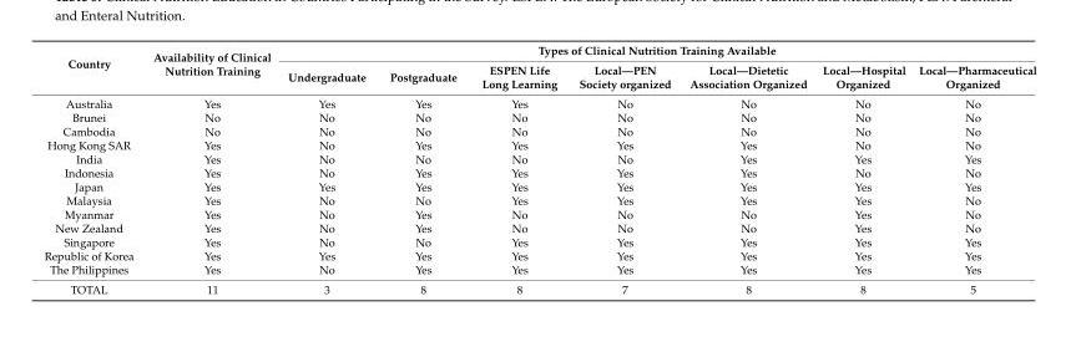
<table><thead><tr><td rowspan="2">Country</td><td rowspan="2">Availability of Clinical Nutrition Training</td><td colspan="7">Types of Clinical Nutrition Training Available</td></tr><tr><td>Undergraduate</td><td>Postgraduate</td><td>ESPEN Life Long Learning</td><td>Local—PEN Society organized</td><td>Local—Dietetic Association Organized</td><td>Local—Hospital Organized</td><td>Local—Pharmaceutical Organized</td></tr></thead><tbody><tr><td>Australia</td><td>Yes</td><td>Yes</td><td>Yes</td><td>Yes</td><td>No</td><td>No</td><td>No</td><td>No</td></tr><tr><td>Brunei</td><td>No</td><td>No</td><td>No</td><td>No</td><td>No</td><td>No</td><td>No</td><td>No</td></tr><tr><td>Cambodia</td><td>No</td><td>No</td><td>No</td><td>No</td><td>No</td><td>No</td><td>No</td><td>No</td></tr><tr><td>Hong Kong SAR</td><td>Yes</td><td>No</td><td>Yes</td><td>Yes</td><td>Yes</td><td>Yes</td><td>No</td><td>No</td></tr><tr><td>India</td><td>Yes</td><td>No</td><td>No</td><td>No</td><td>No</td><td>Yes</td><td>Yes</td><td>Yes</td></tr><tr><td>Indonesia</td><td>Yes</td><td>No</td><td>Yes</td><td>Yes</td><td>Yes</td><td>Yes</td><td>No</td><td>No</td></tr><tr><td>Japan</td><td>Yes</td><td>Yes</td><td>Yes</td><td>Yes</td><td>Yes</td><td>Yes</td><td>Yes</td><td>Yes</td></tr><tr><td>Malaysia</td><td>Yes</td><td>No</td><td>No</td><td>Yes</td><td>Yes</td><td>Yes</td><td>Yes</td><td>No</td></tr><tr><td>Myanmar</td><td>Yes</td><td>No</td><td>Yes</td><td>No</td><td>No</td><td>No</td><td>Yes</td><td>No</td></tr><tr><td>New Zealand</td><td>Yes</td><td>No</td><td>Yes</td><td>No</td><td>No</td><td>No</td><td>Yes</td><td>No</td></tr><tr><td>Singapore</td><td>Yes</td><td>No</td><td>No</td><td>Yes</td><td>Yes</td><td>Yes</td><td>Yes</td><td>Yes</td></tr><tr><td>Republic of Korea</td><td>Yes</td><td>Yes</td><td>Yes</td><td>Yes</td><td>Yes</td><td>Yes</td><td>Yes</td><td>Yes</td></tr><tr><td>The Philippines</td><td>Yes</td><td>No</td><td>Yes</td><td>Yes</td><td>Yes</td><td>Yes</td><td>Yes</td><td>Yes</td></tr><tr><td>TOTAL</td><td>11</td><td>3</td><td>8</td><td>8</td><td>7</td><td>8</td><td>8</td><td>5</td></tr></tbody></table>